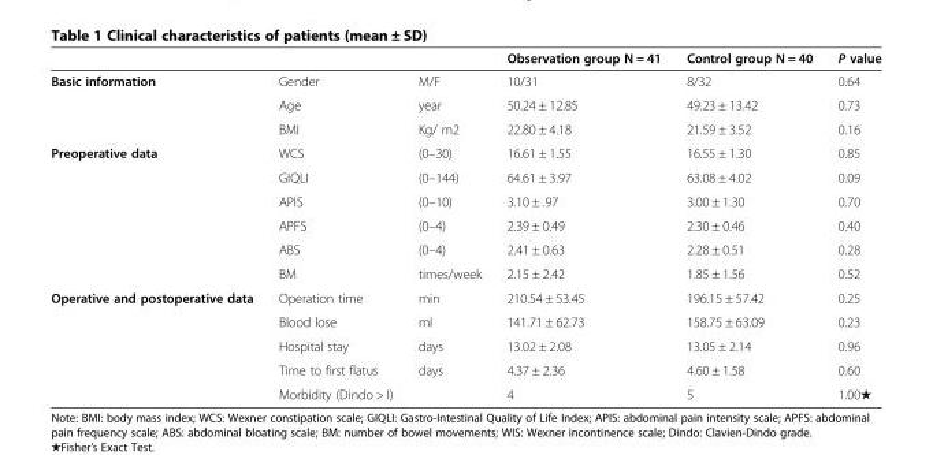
<table><thead><tr><td></td><td></td><td></td><td>Observation group N = 41</td><td>Control group N = 40</td><td>P value</td></tr></thead><tbody><tr><td rowspan="3">Basic information</td><td>Gender</td><td>M/F</td><td>10/31</td><td>8/32</td><td>0.64</td></tr><tr><td>Age</td><td>year</td><td>50.24 ± 12.85</td><td>49.23 ± 13.42</td><td>0.73</td></tr><tr><td>BMI</td><td>Kg/ m2</td><td>22.80 ± 4.18</td><td>21.59 ± 3.52</td><td>0.16</td></tr><tr><td rowspan="6">Preoperative data</td><td>WCS</td><td>(0–30)</td><td>16.61 ± 1.55</td><td>16.55 ± 1.30</td><td>0.85</td></tr><tr><td>GIQLI</td><td>(0–144)</td><td>64.61 ± 3.97</td><td>63.08 ± 4.02</td><td>0.09</td></tr><tr><td>APIS</td><td>(0–10)</td><td>3.10 ± .97</td><td>3.00 ± 1.30</td><td>0.70</td></tr><tr><td>APFS</td><td>(0–4)</td><td>2.39 ± 0.49</td><td>2.30 ± 0.46</td><td>0.40</td></tr><tr><td>ABS</td><td>(0–4)</td><td>2.41 ± 0.63</td><td>2.28 ± 0.51</td><td>0.28</td></tr><tr><td>BM</td><td>times/week</td><td>2.15 ± 2.42</td><td>1.85 ± 1.56</td><td>0.52</td></tr><tr><td rowspan="5">Operative and postoperative data</td><td>Operation time</td><td>min</td><td>210.54 ± 53.45</td><td>196.15 ± 57.42</td><td>0.25</td></tr><tr><td>Blood lose</td><td>ml</td><td>141.71 ± 62.73</td><td>158.75 ± 63.09</td><td>0.23</td></tr><tr><td>Hospital stay</td><td>days</td><td>13.02 ± 2.08</td><td>13.05 ± 2.14</td><td>0.96</td></tr><tr><td>Time to first flatus</td><td>days</td><td>4.37 ± 2.36</td><td>4.60 ± 1.58</td><td>0.60</td></tr><tr><td>Morbidity (Dindo &gt; I)</td><td></td><td>4</td><td>5</td><td>1.00★</td></tr></tbody></table>